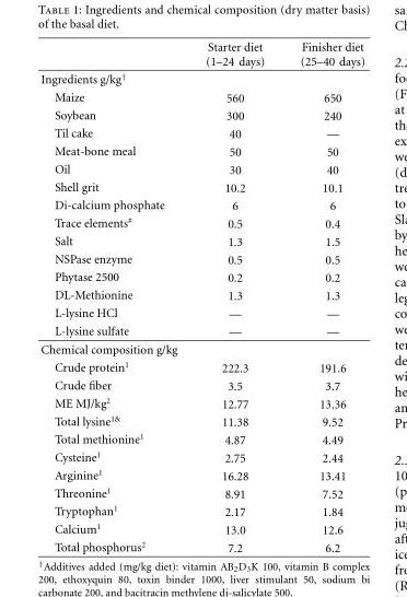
<table><thead><tr><td></td><td>Starter diet (1–24 days)</td><td>Finisher diet (25–40 days)</td></tr></thead><tbody><tr><td colspan="3">Ingredients g/kg<sup>†</sup></td></tr><tr><td>Maize</td><td>560</td><td>650</td></tr><tr><td>Soybean</td><td>300</td><td>240</td></tr><tr><td>Til cake</td><td>40</td><td>—</td></tr><tr><td>Meat-bone meal</td><td>50</td><td>50</td></tr><tr><td>Oil</td><td>30</td><td>40</td></tr><tr><td>Shell grit</td><td>10.2</td><td>10.1</td></tr><tr><td>Di-calcium phosphate</td><td>6</td><td>6</td></tr><tr><td>Trace elements<sup>#</sup></td><td>0.5</td><td>0.4</td></tr><tr><td>Salt</td><td>1.3</td><td>1.5</td></tr><tr><td>NSPase enzyme</td><td>0.5</td><td>0.5</td></tr><tr><td>Phytase 2500</td><td>0.2</td><td>0.2</td></tr><tr><td>DL-Methionine</td><td>1.3</td><td>1.3</td></tr><tr><td>L-lysine HCl</td><td>—</td><td>—</td></tr><tr><td>L-lysine sulfate</td><td>—</td><td>—</td></tr><tr><td colspan="3">Chemical composition g/kg</td></tr><tr><td>Crude protein<sup>1</sup></td><td>222.3</td><td>191.6</td></tr><tr><td>Crude fiber</td><td>3.5</td><td>3.7</td></tr><tr><td>ME MJ/kg<sup>2</sup></td><td>12.77</td><td>13.36</td></tr><tr><td>Total lysine<sup>1&amp;</sup></td><td>11.38</td><td>9.52</td></tr><tr><td>Total methionine<sup>1</sup></td><td>4.87</td><td>4.49</td></tr><tr><td>Cysteine<sup>1</sup></td><td>2.75</td><td>2.44</td></tr><tr><td>Arginine<sup>1</sup></td><td>16.28</td><td>13.41</td></tr><tr><td>Threonine<sup>1</sup></td><td>8.91</td><td>7.52</td></tr><tr><td>Tryptophan<sup>1</sup></td><td>2.17</td><td>1.84</td></tr><tr><td>Calcium<sup>1</sup></td><td>13.0</td><td>12.6</td></tr><tr><td>Total phosphorus<sup>2</sup></td><td>7.2</td><td>6.2</td></tr></tbody></table>